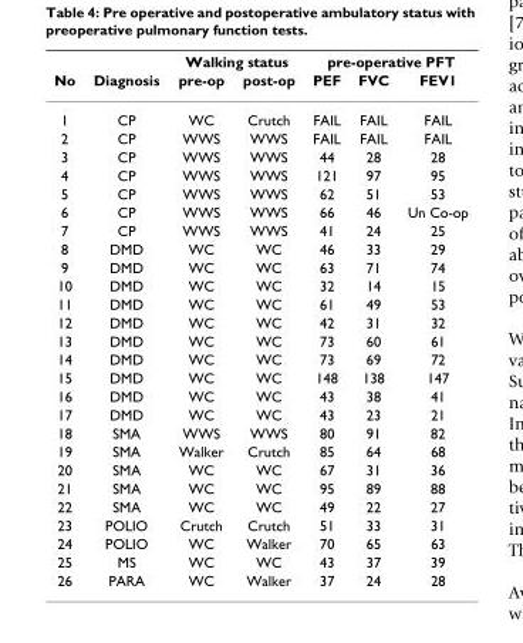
<table><thead><tr><td rowspan="2">No</td><td rowspan="2">Diagnosis</td><td colspan="2">Walking status</td><td colspan="3">pre-operative PFT</td></tr><tr><td>pre-op</td><td>post-op</td><td>PEF</td><td>FVC</td><td>FEV1</td></tr></thead><tbody><tr><td>1</td><td>CP</td><td>WC</td><td>Crutch</td><td>FAIL</td><td>FAIL</td><td>FAIL</td></tr><tr><td>2</td><td>CP</td><td>WWS</td><td>WWS</td><td>FAIL</td><td>FAIL</td><td>FAIL</td></tr><tr><td>3</td><td>CP</td><td>WWS</td><td>WWS</td><td>44</td><td>28</td><td>28</td></tr><tr><td>4</td><td>CP</td><td>WWS</td><td>WWS</td><td>121</td><td>97</td><td>95</td></tr><tr><td>5</td><td>CP</td><td>WWS</td><td>WWS</td><td>62</td><td>51</td><td>53</td></tr><tr><td>6</td><td>CP</td><td>WWS</td><td>WWS</td><td>66</td><td>46</td><td>Un Co-op</td></tr><tr><td>7</td><td>CP</td><td>WWS</td><td>WWS</td><td>41</td><td>24</td><td>25</td></tr><tr><td>8</td><td>DMD</td><td>WC</td><td>WC</td><td>46</td><td>33</td><td>29</td></tr><tr><td>9</td><td>DMD</td><td>WC</td><td>WC</td><td>63</td><td>71</td><td>74</td></tr><tr><td>10</td><td>DMD</td><td>WC</td><td>WC</td><td>32</td><td>14</td><td>15</td></tr><tr><td>11</td><td>DMD</td><td>WC</td><td>WC</td><td>61</td><td>49</td><td>53</td></tr><tr><td>12</td><td>DMD</td><td>WC</td><td>WC</td><td>42</td><td>31</td><td>32</td></tr><tr><td>13</td><td>DMD</td><td>WC</td><td>WC</td><td>73</td><td>60</td><td>61</td></tr><tr><td>14</td><td>DMD</td><td>WC</td><td>WC</td><td>73</td><td>69</td><td>72</td></tr><tr><td>15</td><td>DMD</td><td>WC</td><td>WC</td><td>148</td><td>138</td><td>147</td></tr><tr><td>16</td><td>DMD</td><td>WC</td><td>WC</td><td>43</td><td>38</td><td>41</td></tr><tr><td>17</td><td>DMD</td><td>WC</td><td>WC</td><td>43</td><td>23</td><td>21</td></tr><tr><td>18</td><td>SMA</td><td>WWS</td><td>WWS</td><td>80</td><td>91</td><td>82</td></tr><tr><td>19</td><td>SMA</td><td>Walker</td><td>Crutch</td><td>85</td><td>64</td><td>68</td></tr><tr><td>20</td><td>SMA</td><td>WC</td><td>WC</td><td>67</td><td>31</td><td>36</td></tr><tr><td>21</td><td>SMA</td><td>WC</td><td>WC</td><td>95</td><td>89</td><td>88</td></tr><tr><td>22</td><td>SMA</td><td>WC</td><td>WC</td><td>49</td><td>22</td><td>27</td></tr><tr><td>23</td><td>POLIO</td><td>Crutch</td><td>Crutch</td><td>51</td><td>33</td><td>31</td></tr><tr><td>24</td><td>POLIO</td><td>WC</td><td>Walker</td><td>70</td><td>65</td><td>63</td></tr><tr><td>25</td><td>MS</td><td>WC</td><td>WC</td><td>43</td><td>37</td><td>39</td></tr><tr><td>26</td><td>PARA</td><td>WC</td><td>Walker</td><td>37</td><td>24</td><td>28</td></tr></tbody></table>